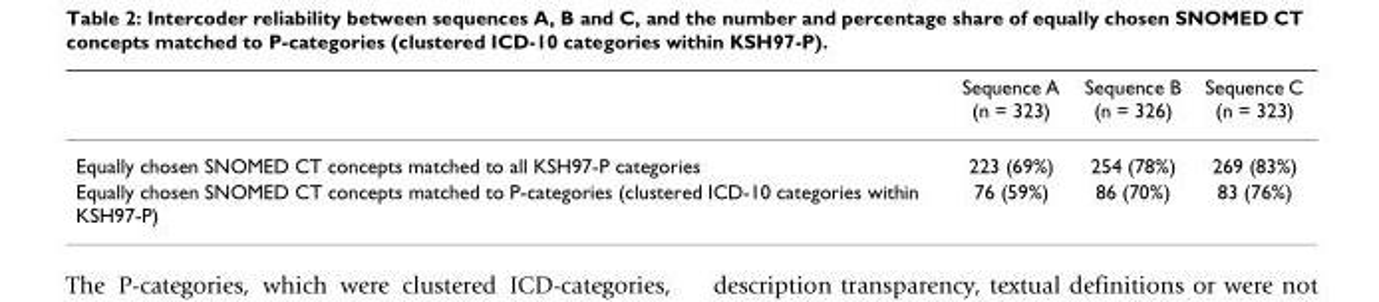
<table><thead><tr><td></td><td>Sequence A (n = 323)</td><td>Sequence B (n = 326)</td><td>Sequence C (n = 323)</td></tr></thead><tbody><tr><td>Equally chosen SNOMED CT concepts matched to all KSH97-P categories</td><td>223 (69%)</td><td>254 (78%)</td><td>269 (83%)</td></tr><tr><td>Equally chosen SNOMED CT concepts matched to P-categories (clustered ICD-10 categories within KSH97-P)</td><td>76 (59%)</td><td>86 (70%)</td><td>83 (76%)</td></tr></tbody></table>